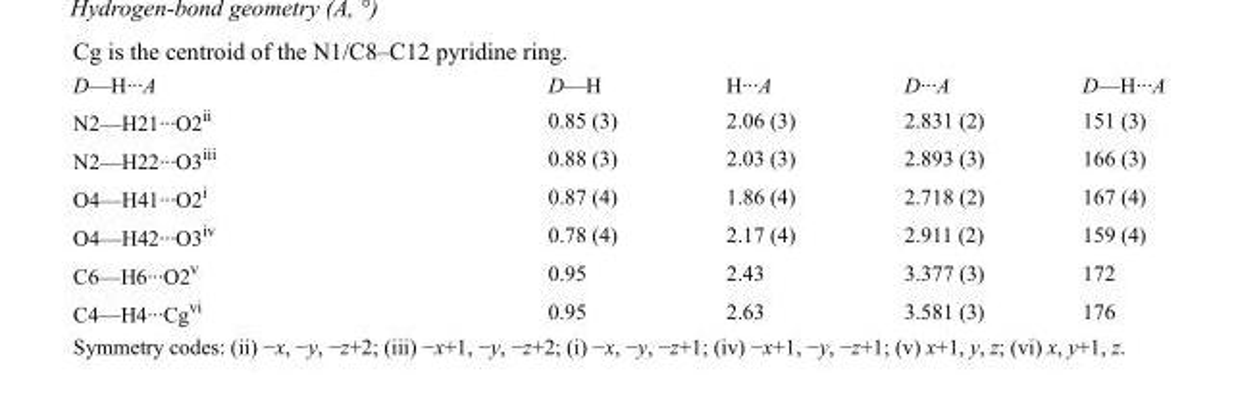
<table><tbody><tr><td>D—H···A</td><td>D—H</td><td>H···A</td><td>D···A</td><td>D—H···A</td></tr><tr><td>N2—H21···O2<sup>ii</sup></td><td>0.85 (3)</td><td>2.06 (3)</td><td>2.831 (2)</td><td>151 (3)</td></tr><tr><td>N2—H22···O3<sup>iii</sup></td><td>0.88 (3)</td><td>2.03 (3)</td><td>2.893 (3)</td><td>166 (3)</td></tr><tr><td>O4—H41···O2<sup>i</sup></td><td>0.87 (4)</td><td>1.86 (4)</td><td>2.718 (2)</td><td>167 (4)</td></tr><tr><td>O4—H42···O3<sup>iv</sup></td><td>0.78 (4)</td><td>2.17 (4)</td><td>2.911 (2)</td><td>159 (4)</td></tr><tr><td>C6—H6···O2<sup>v</sup></td><td>0.95</td><td>2.43</td><td>3.377 (3)</td><td>172</td></tr><tr><td>C4—H4···Cg<sup>vi</sup></td><td>0.95</td><td>2.63</td><td>3.581 (3)</td><td>176</td></tr></tbody></table>